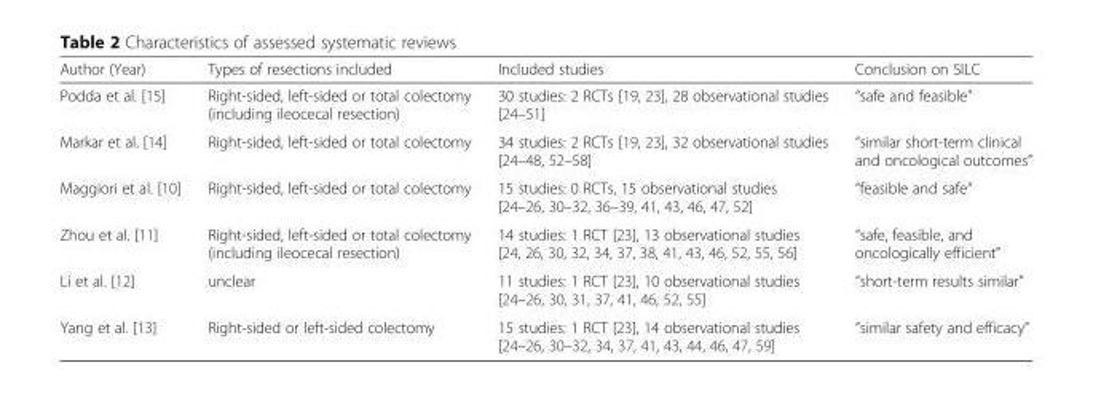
<table><thead><tr><td>Author (Year)</td><td>Types of resections included</td><td>Included studies</td><td>Conclusion on SILC</td></tr></thead><tbody><tr><td>Podda et al. [15]</td><td>Right-sided, left-sided or total colectomy (including ileocecal resection)</td><td>30 studies: 2 RCTs [19, 23], 28 observational studies [24–51]</td><td>“safe and feasible”</td></tr><tr><td>Markar et al. [14]</td><td>Right-sided, left-sided or total colectomy</td><td>34 studies: 2 RCTs [19, 23], 32 observational studies [24–48, 52–58]</td><td>“similar short-term clinical and oncological outcomes”</td></tr><tr><td>Maggiori et al. [10]</td><td>Right-sided, left-sided or total colectomy</td><td>15 studies: 0 RCTs, 15 observational studies [24–26, 30–32, 36–39, 41, 43, 46, 47, 52]</td><td>“feasible and safe”</td></tr><tr><td>Zhou et al. [11]</td><td>Right-sided, left-sided or total colectomy (including ileocecal resection)</td><td>14 studies: 1 RCT [23], 13 observational studies [24, 26, 30, 32, 34, 37, 38, 41, 43, 46, 52, 55, 56]</td><td>“safe, feasible, and oncologically efficient”</td></tr><tr><td>Li et al. [12]</td><td>unclear</td><td>11 studies: 1 RCT [23], 10 observational studies [24–26, 30, 31, 37, 41, 46, 52, 55]</td><td>“short-term results similar”</td></tr><tr><td>Yang et al. [13]</td><td>Right-sided or left-sided colectomy</td><td>15 studies: 1 RCT [23], 14 observational studies [24–26, 30–32, 34, 37, 41, 43, 44, 46, 47, 59]</td><td>“similar safety and efficacy”</td></tr></tbody></table>